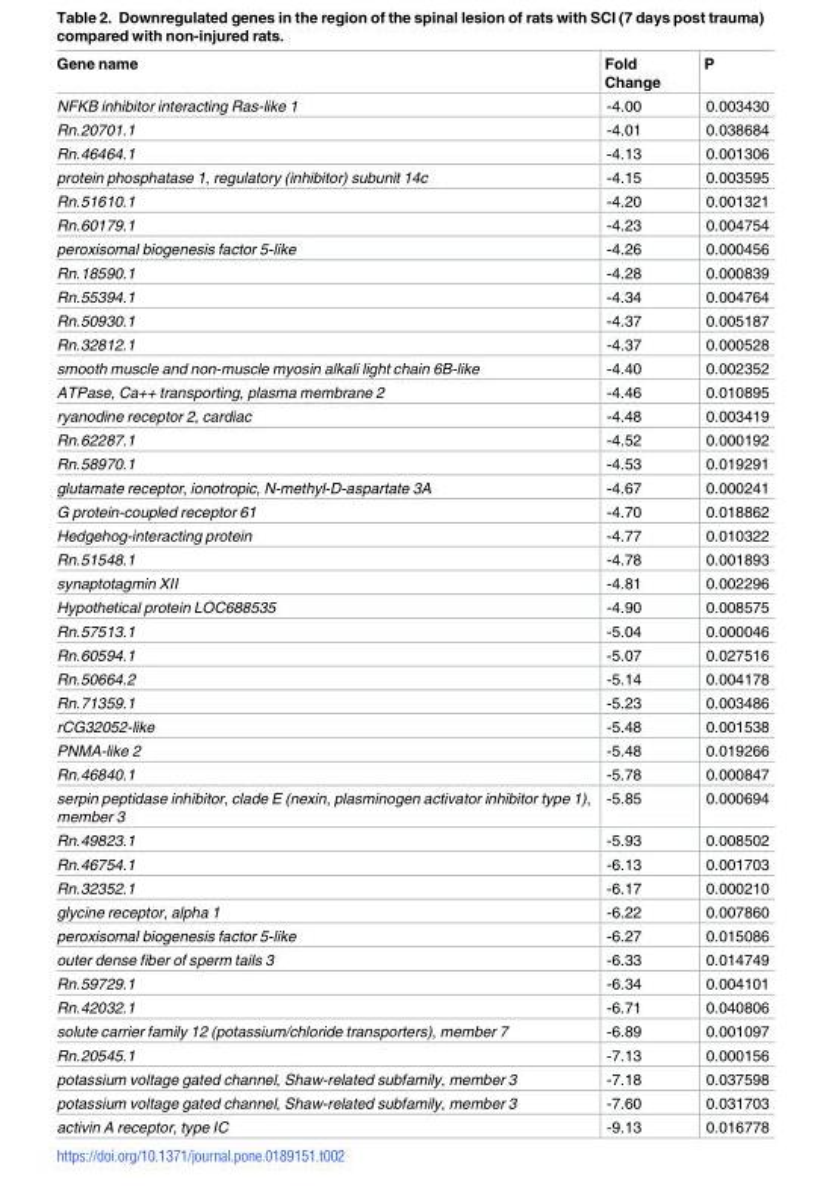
<table><thead><tr><td>Gene name</td><td>Fold Change</td><td>P</td></tr></thead><tbody><tr><td>NFKB inhibitor interacting Ras-like 1</td><td>-4.00</td><td>0.003430</td></tr><tr><td>Rn.20701.1</td><td>-4.01</td><td>0.038684</td></tr><tr><td>Rn.46464.1</td><td>-4.13</td><td>0.001306</td></tr><tr><td>protein phosphatase 1, regulatory (inhibitor) subunit 14c</td><td>-4.15</td><td>0.003595</td></tr><tr><td>Rn.51610.1</td><td>-4.20</td><td>0.001321</td></tr><tr><td>Rn.60179.1</td><td>-4.23</td><td>0.004754</td></tr><tr><td>peroxisomal biogenesis factor 5-like</td><td>-4.26</td><td>0.000456</td></tr><tr><td>Rn.18590.1</td><td>-4.28</td><td>0.000839</td></tr><tr><td>Rn.55394.1</td><td>-4.34</td><td>0.004764</td></tr><tr><td>Rn.50930.1</td><td>-4.37</td><td>0.005187</td></tr><tr><td>Rn.32812.1</td><td>-4.37</td><td>0.000528</td></tr><tr><td>smooth muscle and non-muscle myosin alkali light chain 6B-like</td><td>-4.40</td><td>0.002352</td></tr><tr><td>ATPase, Ca++ transporting, plasma membrane 2</td><td>-4.46</td><td>0.010895</td></tr><tr><td>ryanodine receptor 2, cardiac</td><td>-4.48</td><td>0.003419</td></tr><tr><td>Rn.62287.1</td><td>-4.52</td><td>0.000192</td></tr><tr><td>Rn.58970.1</td><td>-4.53</td><td>0.019291</td></tr><tr><td>glutamate receptor, ionotropic, N-methyl-D-aspartate 3A</td><td>-4.67</td><td>0.000241</td></tr><tr><td>G protein-coupled receptor 61</td><td>-4.70</td><td>0.018862</td></tr><tr><td>Hedgehog-interacting protein</td><td>-4.77</td><td>0.010322</td></tr><tr><td>Rn.51548.1</td><td>-4.78</td><td>0.001893</td></tr><tr><td>synaptotagmin XII</td><td>-4.81</td><td>0.002296</td></tr><tr><td>Hypothetical protein LOC688535</td><td>-4.90</td><td>0.008575</td></tr><tr><td>Rn.57513.1</td><td>-5.04</td><td>0.000046</td></tr><tr><td>Rn.60594.1</td><td>-5.07</td><td>0.027516</td></tr><tr><td>Rn.50664.2</td><td>-5.14</td><td>0.004178</td></tr><tr><td>Rn.71359.1</td><td>-5.23</td><td>0.003486</td></tr><tr><td>rCG32052-like</td><td>-5.48</td><td>0.001538</td></tr><tr><td>PNMA-like 2</td><td>-5.48</td><td>0.019266</td></tr><tr><td>Rn.46840.1</td><td>-5.78</td><td>0.000847</td></tr><tr><td>serpin peptidase inhibitor, clade E (nexin, plasminogen activator inhibitor type 1), member 3</td><td>-5.85</td><td>0.000694</td></tr><tr><td>Rn.49823.1</td><td>-5.93</td><td>0.008502</td></tr><tr><td>Rn.46754.1</td><td>-6.13</td><td>0.001703</td></tr><tr><td>Rn.32352.1</td><td>-6.17</td><td>0.000210</td></tr><tr><td>glycine receptor, alpha 1</td><td>-6.22</td><td>0.007860</td></tr><tr><td>peroxisomal biogenesis factor 5-like</td><td>-6.27</td><td>0.015086</td></tr><tr><td>outer dense fiber of sperm tails 3</td><td>-6.33</td><td>0.014749</td></tr><tr><td>Rn.59729.1</td><td>-6.34</td><td>0.004101</td></tr><tr><td>Rn.42032.1</td><td>-6.71</td><td>0.040806</td></tr><tr><td>solute carrier family 12 (potassium/chloride transporters), member 7</td><td>-6.89</td><td>0.001097</td></tr><tr><td>Rn.20545.1</td><td>-7.13</td><td>0.000156</td></tr><tr><td>potassium voltage gated channel, Shaw-related subfamily, member 3</td><td>-7.18</td><td>0.037598</td></tr><tr><td>potassium voltage gated channel, Shaw-related subfamily, member 3</td><td>-7.60</td><td>0.031703</td></tr><tr><td>activin A receptor, type IC</td><td>-9.13</td><td>0.016778</td></tr></tbody></table>